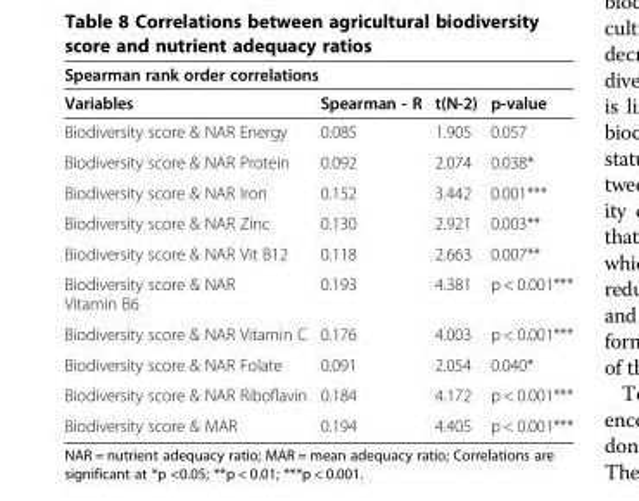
<table><thead><tr><td colspan="4">Spearman rank order correlations</td></tr><tr><td>Variables</td><td>Spearman - R</td><td>t(N-2)</td><td>p-value</td></tr></thead><tbody><tr><td>Biodiversity score &amp; NAR Energy</td><td>0.085</td><td>1.905</td><td>0.057</td></tr><tr><td>Biodiversity score &amp; NAR Protein</td><td>0.092</td><td>2.074</td><td>0.038*</td></tr><tr><td>Biodiversity score &amp; NAR Iron</td><td>0.152</td><td>3.442</td><td>0.001***</td></tr><tr><td>Biodiversity score &amp; NAR Zinc</td><td>0.130</td><td>2.921</td><td>0.003**</td></tr><tr><td>Biodiversity score &amp; NAR Vit B12</td><td>0.118</td><td>2.663</td><td>0.007**</td></tr><tr><td>Biodiversity score &amp; NAR Vitamin B6</td><td>0.193</td><td>4.381</td><td>p &lt; 0.001***</td></tr><tr><td>Biodiversity score &amp; NAR Vitamin C</td><td>0.176</td><td>4.003</td><td>p &lt; 0.001***</td></tr><tr><td>Biodiversity score &amp; NAR Folate</td><td>0.091</td><td>2.054</td><td>0.040*</td></tr><tr><td>Biodiversity score &amp; NAR Riboflavin</td><td>0.184</td><td>4.172</td><td>p &lt; 0.001***</td></tr><tr><td>Biodiversity score &amp; MAR</td><td>0.194</td><td>4.405</td><td>p &lt; 0.001***</td></tr></tbody></table>